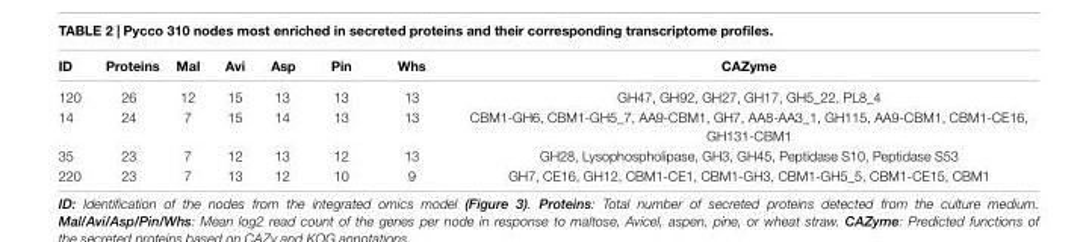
<table><thead><tr><td>ID</td><td>Proteins</td><td>Mal</td><td>Avi</td><td>Asp</td><td>Pin</td><td>Whs</td><td>CAZyme</td></tr></thead><tbody><tr><td>120</td><td>26</td><td>12</td><td>15</td><td>13</td><td>13</td><td>13</td><td>GH47, GH92, GH27, GH17, GH5_22, PL8_4</td></tr><tr><td>14</td><td>24</td><td>7</td><td>15</td><td>14</td><td>13</td><td>13</td><td>CBM1-GH6, CBM1-GH5_7, AA9-CBM1, GH7, AA8-AA3_1, GH115, AA9-CBM1, CBM1-CE16, GH131-CBM1</td></tr><tr><td>35</td><td>23</td><td>7</td><td>12</td><td>13</td><td>12</td><td>13</td><td>GH28, Lysophospholipase, GH3, GH45, Peptidase S10, Peptidase S53</td></tr><tr><td>220</td><td>23</td><td>7</td><td>13</td><td>12</td><td>10</td><td>9</td><td>GH7, CE16, GH12, CBM1-CE1, CBM1-GH3, CBM1-GH5_5, CBM1-CE15, CBM1</td></tr></tbody></table>